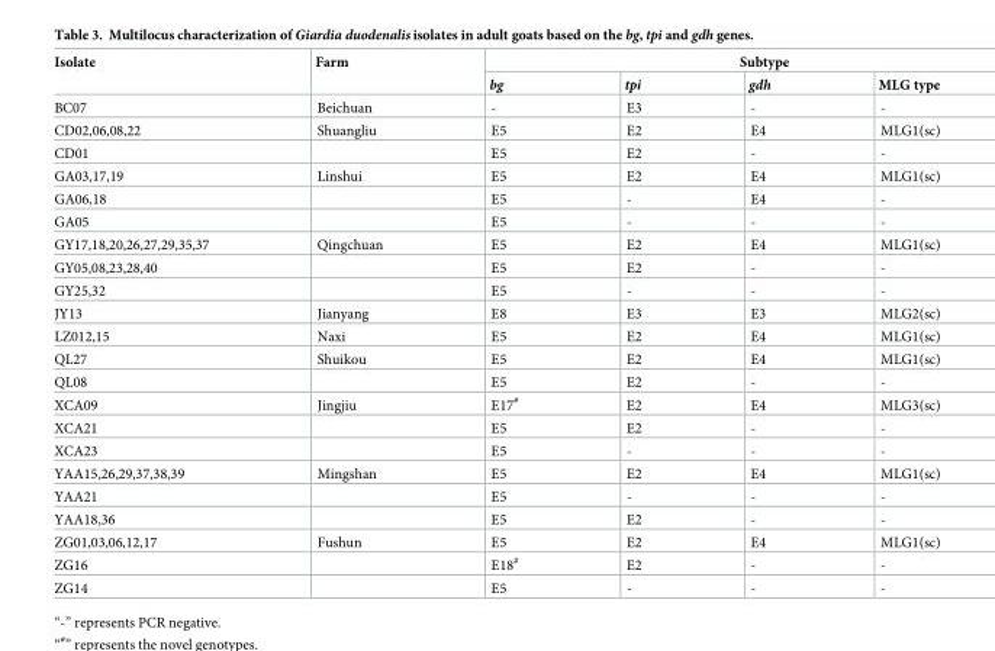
<table><thead><tr><td rowspan="2">Isolate</td><td rowspan="2">Farm</td><td colspan="4">Subtype</td></tr><tr><td>bg</td><td>tpi</td><td>gdh</td><td>MLG type</td></tr></thead><tbody><tr><td>BC07</td><td>Beichuan</td><td>-</td><td>E3</td><td>-</td><td>-</td></tr><tr><td>CD02,06,08,22</td><td>Shuangliu</td><td>E5</td><td>E2</td><td>E4</td><td>MLG1(sc)</td></tr><tr><td>CD01</td><td></td><td>E5</td><td>E2</td><td>-</td><td>-</td></tr><tr><td>GA03,17,19</td><td>Linshui</td><td>E5</td><td>E2</td><td>E4</td><td>MLG1(sc)</td></tr><tr><td>GA06,18</td><td></td><td>E5</td><td>-</td><td>E4</td><td>-</td></tr><tr><td>GA05</td><td></td><td>E5</td><td>-</td><td>-</td><td>-</td></tr><tr><td>GY17,18,20,26,27,29,35,37</td><td>Qingchuan</td><td>E5</td><td>E2</td><td>E4</td><td>MLG1(sc)</td></tr><tr><td>GY05,08,23,28,40</td><td></td><td>E5</td><td>E2</td><td>-</td><td>-</td></tr><tr><td>GY25,32</td><td></td><td>E5</td><td>-</td><td>-</td><td>-</td></tr><tr><td>JY13</td><td>Jianyang</td><td>E8</td><td>E3</td><td>E3</td><td>MLG2(sc)</td></tr><tr><td>LZ012,15</td><td>Naxi</td><td>E5</td><td>E2</td><td>E4</td><td>MLG1(sc)</td></tr><tr><td>QL27</td><td>Shuikou</td><td>E5</td><td>E2</td><td>E4</td><td>MLG1(sc)</td></tr><tr><td>QL08</td><td></td><td>E5</td><td>E2</td><td>-</td><td>-</td></tr><tr><td>XCA09</td><td>Jingjiu</td><td>E17<sup>#</sup></td><td>E2</td><td>E4</td><td>MLG3(sc)</td></tr><tr><td>XCA21</td><td></td><td>E5</td><td>E2</td><td>-</td><td>-</td></tr><tr><td>XCA23</td><td></td><td>E5</td><td>-</td><td>-</td><td>-</td></tr><tr><td>YAA15,26,29,37,38,39</td><td>Mingshan</td><td>E5</td><td>E2</td><td>E4</td><td>MLG1(sc)</td></tr><tr><td>YAA21</td><td></td><td>E5</td><td>-</td><td>-</td><td>-</td></tr><tr><td>YAA18,36</td><td></td><td>E5</td><td>E2</td><td>-</td><td>-</td></tr><tr><td>ZG01,03,06,12,17</td><td>Fushun</td><td>E5</td><td>E2</td><td>E4</td><td>MLG1(sc)</td></tr><tr><td>ZG16</td><td></td><td>E18<sup>#</sup></td><td>E2</td><td>-</td><td>-</td></tr><tr><td>ZG14</td><td></td><td>E5</td><td>-</td><td>-</td><td>-</td></tr></tbody></table>